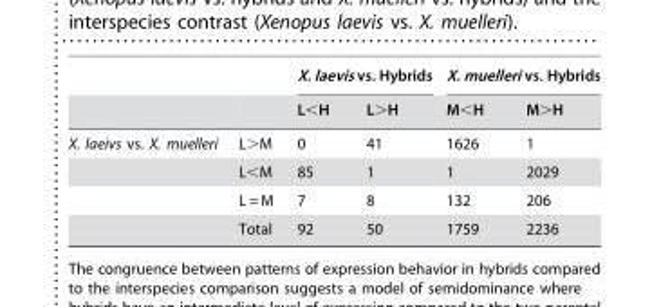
<table><thead><tr><td rowspan="2"></td><td rowspan="2"></td><td colspan="2">X. laevis vs. Hybrids</td><td colspan="2">X. muelleri vs. Hybrids</td></tr><tr><td>L&lt;H</td><td>L&gt;H</td><td>M&lt;H</td><td>M&gt;H</td></tr></thead><tbody><tr><td rowspan="4">X. laeivs vs. X. muelleri</td><td>L&gt;M</td><td>0</td><td>41</td><td>1626</td><td>1</td></tr><tr><td>L&lt;M</td><td>85</td><td>1</td><td>1</td><td>2029</td></tr><tr><td>L = M</td><td>7</td><td>8</td><td>132</td><td>206</td></tr><tr><td>Total</td><td>92</td><td>50</td><td>1759</td><td>2236</td></tr></tbody></table>